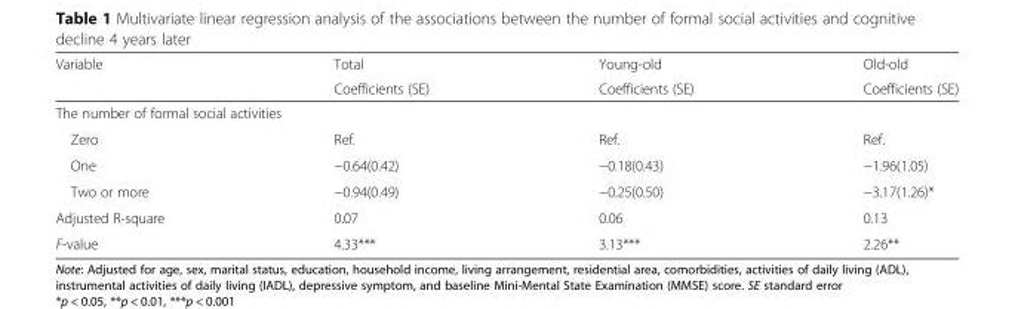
<table><thead><tr><td rowspan="2">Variable</td><td rowspan="2">Total Coefficients (SE)</td><td rowspan="2">Young-old Coefficients (SE)</td><td rowspan="2">Old-old Coefficients (SE)</td></tr><tr></tr></thead><tbody><tr><td colspan="4">The number of formal social activities</td></tr><tr><td>Zero</td><td>Ref.</td><td>Ref.</td><td>Ref.</td></tr><tr><td>One</td><td>−0.64(0.42)</td><td>−0.18(0.43)</td><td>−1.96(1.05)</td></tr><tr><td>Two or more</td><td>−0.94(0.49)</td><td>−0.25(0.50)</td><td>−3.17(1.26)*</td></tr><tr><td>Adjusted R-square</td><td>0.07</td><td>0.06</td><td>0.13</td></tr><tr><td>F-value</td><td>4.33***</td><td>3.13***</td><td>2.26**</td></tr></tbody></table>